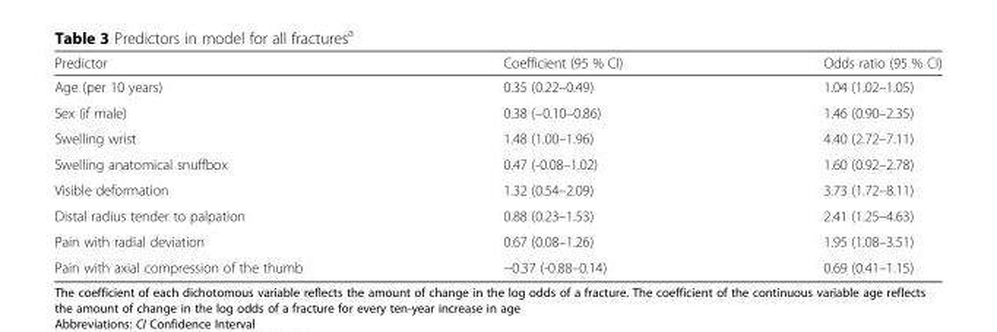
<table><thead><tr><td>Predictor</td><td>Coefficient (95 % CI)</td><td>Odds ratio (95 % CI)</td></tr></thead><tbody><tr><td>Age (per 10 years)</td><td>0.35 (0.22–0.49)</td><td>1.04 (1.02–1.05)</td></tr><tr><td>Sex (if male)</td><td>0.38 (–0.10–0.86)</td><td>1.46 (0.90–2.35)</td></tr><tr><td>Swelling wrist</td><td>1.48 (1.00–1.96)</td><td>4.40 (2.72–7.11)</td></tr><tr><td>Swelling anatomical snuffbox</td><td>0.47 (-0.08–1.02)</td><td>1.60 (0.92–2.78)</td></tr><tr><td>Visible deformation</td><td>1.32 (0.54–2.09)</td><td>3.73 (1.72–8.11)</td></tr><tr><td>Distal radius tender to palpation</td><td>0.88 (0.23–1.53)</td><td>2.41 (1.25–4.63)</td></tr><tr><td>Pain with radial deviation</td><td>0.67 (0.08–1.26)</td><td>1.95 (1.08–3.51)</td></tr><tr><td>Pain with axial compression of the thumb</td><td>−0.37 (-0.88–0.14)</td><td>0.69 (0.41–1.15)</td></tr></tbody></table>